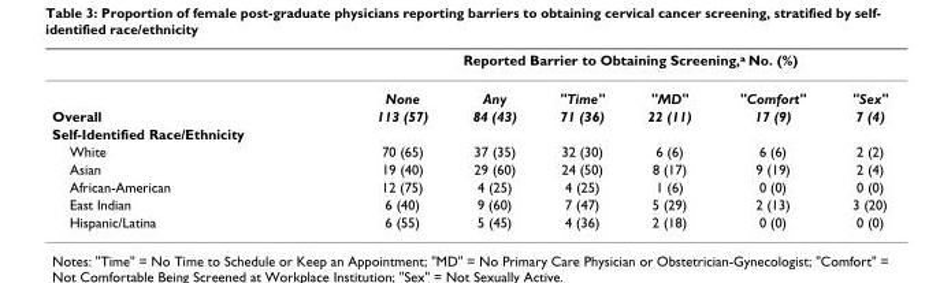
<table><thead><tr><td rowspan="2"></td><td colspan="6">Reported Barrier to Obtaining Screening,<sup>a</sup> No. (%)</td></tr><tr><td>None</td><td>Any</td><td>&quot;Time&quot;</td><td>&quot;MD&quot;</td><td>&quot;Comfort&quot;</td><td>&quot;Sex&quot;</td></tr></thead><tbody><tr><td>Overall</td><td>113 (57)</td><td>84 (43)</td><td>71 (36)</td><td>22 (11)</td><td>17 (9)</td><td>7 (4)</td></tr><tr><td colspan="7">Self-Identified Race/Ethnicity</td></tr><tr><td>White</td><td>70 (65)</td><td>37 (35)</td><td>32 (30)</td><td>6 (6)</td><td>6 (6)</td><td>2 (2)</td></tr><tr><td>Asian</td><td>19 (40)</td><td>29 (60)</td><td>24 (50)</td><td>8 (17)</td><td>9 (19)</td><td>2 (4)</td></tr><tr><td>African-American</td><td>12 (75)</td><td>4 (25)</td><td>4 (25)</td><td>1 (6)</td><td>0 (0)</td><td>0 (0)</td></tr><tr><td>East Indian</td><td>6 (40)</td><td>9 (60)</td><td>7 (47)</td><td>5 (29)</td><td>2 (13)</td><td>3 (20)</td></tr><tr><td>Hispanic/Latina</td><td>6 (55)</td><td>5 (45)</td><td>4 (36)</td><td>2 (18)</td><td>0 (0)</td><td>0 (0)</td></tr></tbody></table>